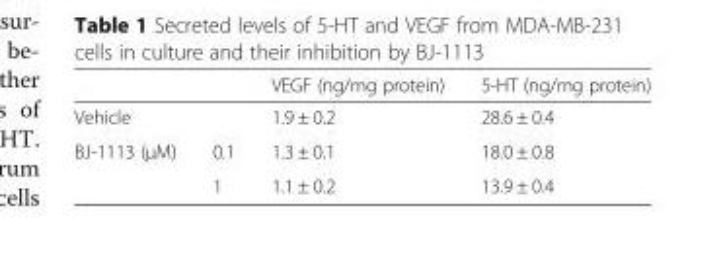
<table><thead><tr><td></td><td></td><td>VEGF (ng/mg protein)</td><td>5-HT (ng/mg protein)</td></tr></thead><tbody><tr><td colspan="2">Vehicle</td><td>1.9 ± 0.2</td><td>28.6 ± 0.4</td></tr><tr><td rowspan="2">BJ-1113 (μM)</td><td>0.1</td><td>1.3 ± 0.1</td><td>18.0 ± 0.8</td></tr><tr><td>1</td><td>1.1 ± 0.2</td><td>13.9 ± 0.4</td></tr></tbody></table>